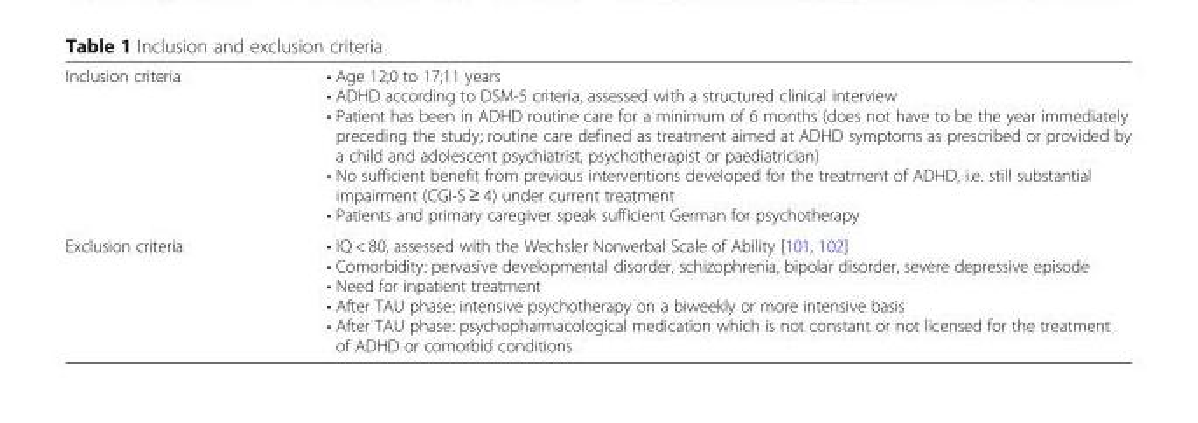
<table><tbody><tr><td>Inclusion criteria</td><td>• Age 12;0 to 17;11 years • ADHD according to DSM-5 criteria, assessed with a structured clinical interview • Patient has been in ADHD routine care for a minimum of 6 months (does not have to be the year immediately preceding the study; routine care defined as treatment aimed at ADHD symptoms as prescribed or provided by a child and adolescent psychiatrist, psychotherapist or paediatrician) • No sufficient benefit from previous interventions developed for the treatment of ADHD, i.e. still substantial impairment (CGI-S ≥ 4) under current treatment • Patients and primary caregiver speak sufficient German for psychotherapy</td></tr><tr><td>Exclusion criteria</td><td>• IQ &lt; 80, assessed with the Wechsler Nonverbal Scale of Ability [101, 102] • Comorbidity: pervasive developmental disorder, schizophrenia, bipolar disorder, severe depressive episode • Need for inpatient treatment • After TAU phase: intensive psychotherapy on a biweekly or more intensive basis • After TAU phase: psychopharmacological medication which is not constant or not licensed for the treatment of ADHD or comorbid conditions</td></tr></tbody></table>